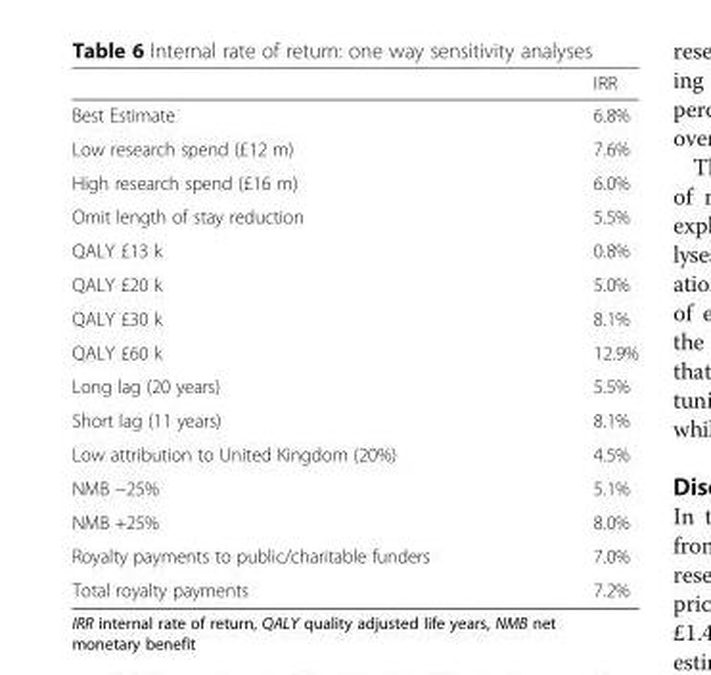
<table><thead><tr><td></td><td>IRR</td></tr></thead><tbody><tr><td>Best Estimate</td><td>6.8%</td></tr><tr><td>Low research spend (£12 m)</td><td>7.6%</td></tr><tr><td>High research spend (£16 m)</td><td>6.0%</td></tr><tr><td>Omit length of stay reduction</td><td>5.5%</td></tr><tr><td>QALY £13 k</td><td>0.8%</td></tr><tr><td>QALY £20 k</td><td>5.0%</td></tr><tr><td>QALY £30 k</td><td>8.1%</td></tr><tr><td>QALY £60 k</td><td>12.9%</td></tr><tr><td>Long lag (20 years)</td><td>5.5%</td></tr><tr><td>Short lag (11 years)</td><td>8.1%</td></tr><tr><td>Low attribution to United Kingdom (20%)</td><td>4.5%</td></tr><tr><td>NMB −25%</td><td>5.1%</td></tr><tr><td>NMB +25%</td><td>8.0%</td></tr><tr><td>Royalty payments to public/charitable funders</td><td>7.0%</td></tr><tr><td>Total royalty payments</td><td>7.2%</td></tr></tbody></table>